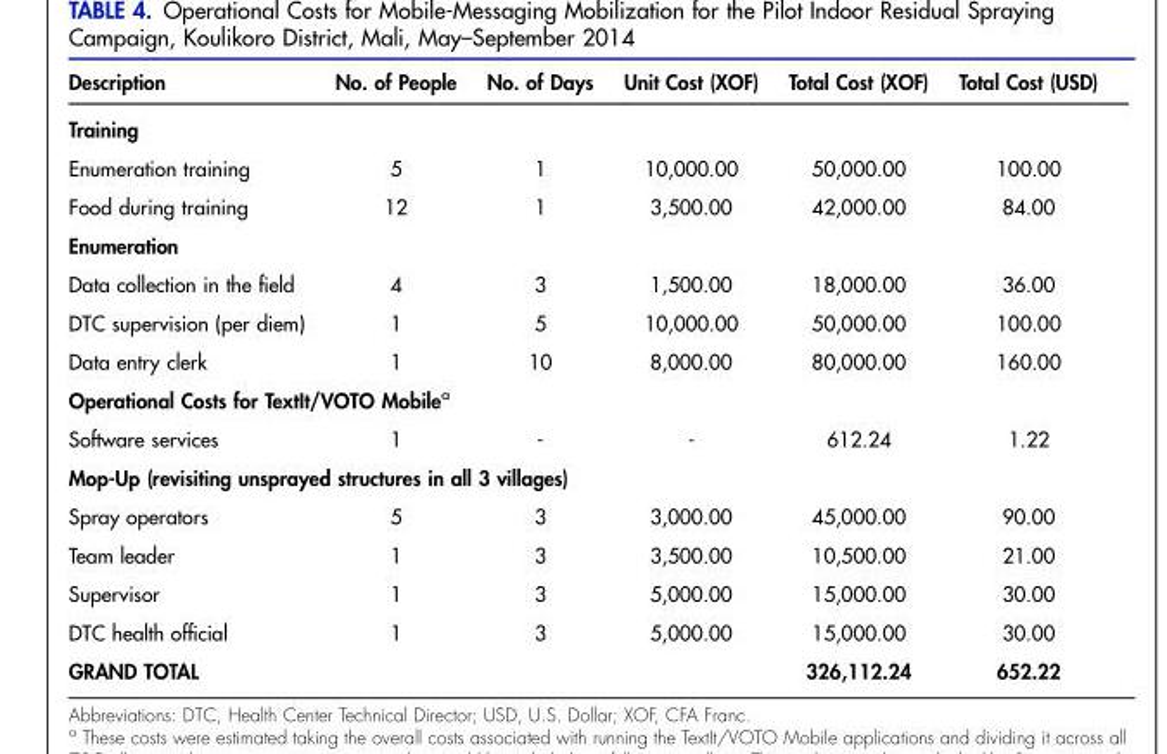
<table><thead><tr><td>Description</td><td>No. of People</td><td>No. of Days</td><td>Unit Cost (XOF)</td><td>Total Cost (XOF)</td><td>Total Cost (USD)</td></tr></thead><tbody><tr><td colspan="6">Training</td></tr><tr><td>Enumeration training</td><td>5</td><td>1</td><td>10,000.00</td><td>50,000.00</td><td>100.00</td></tr><tr><td>Food during training</td><td>12</td><td>1</td><td>3,500.00</td><td>42,000.00</td><td>84.00</td></tr><tr><td colspan="6">Enumeration</td></tr><tr><td>Data collection in the field</td><td>4</td><td>3</td><td>1,500.00</td><td>18,000.00</td><td>36.00</td></tr><tr><td>DTC supervision (per diem)</td><td>1</td><td>5</td><td>10,000.00</td><td>50,000.00</td><td>100.00</td></tr><tr><td>Data entry clerk</td><td>1</td><td>10</td><td>8,000.00</td><td>80,000.00</td><td>160.00</td></tr><tr><td colspan="6">Operational Costs for TextIt/VOTO Mobile<sup>a</sup></td></tr><tr><td>Software services</td><td>1</td><td>-</td><td>-</td><td>612.24</td><td>1.22</td></tr><tr><td colspan="6">Mop-Up (revisiting unsprayed structures in all 3 villages)</td></tr><tr><td>Spray operators</td><td>5</td><td>3</td><td>3,000.00</td><td>45,000.00</td><td>90.00</td></tr><tr><td>Team leader</td><td>1</td><td>3</td><td>3,500.00</td><td>10,500.00</td><td>21.00</td></tr><tr><td>Supervisor</td><td>1</td><td>3</td><td>5,000.00</td><td>15,000.00</td><td>30.00</td></tr><tr><td>DTC health official</td><td>1</td><td>3</td><td>5,000.00</td><td>15,000.00</td><td>30.00</td></tr><tr><td>GRAND TOTAL</td><td></td><td></td><td></td><td>326,112.24</td><td>652.22</td></tr></tbody></table>